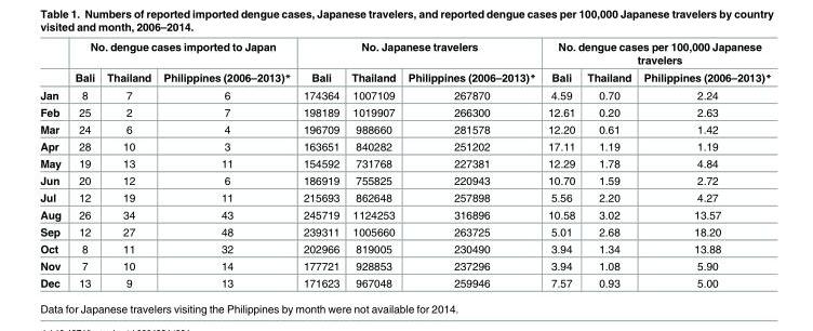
<table><thead><tr><td rowspan="2"></td><td colspan="3">No. dengue cases imported to Japan</td><td colspan="3">No. Japanese travelers</td><td colspan="3">No. dengue cases per 100,000 Japanese travelers</td></tr><tr><td>Bali</td><td>Thailand</td><td>Philippines (2006–2013)*</td><td>Bali</td><td>Thailand</td><td>Philippines (2006–2013)*</td><td>Bali</td><td>Thailand</td><td>Philippines (2006–2013)*</td></tr></thead><tbody><tr><td>Jan</td><td>8</td><td>7</td><td>6</td><td>174364</td><td>1007109</td><td>267870</td><td>4.59</td><td>0.70</td><td>2.24</td></tr><tr><td>Feb</td><td>25</td><td>2</td><td>7</td><td>198189</td><td>1019907</td><td>266300</td><td>12.61</td><td>0.20</td><td>2.63</td></tr><tr><td>Mar</td><td>24</td><td>6</td><td>4</td><td>196709</td><td>988660</td><td>281578</td><td>12.20</td><td>0.61</td><td>1.42</td></tr><tr><td>Apr</td><td>28</td><td>10</td><td>3</td><td>163651</td><td>840282</td><td>251202</td><td>17.11</td><td>1.19</td><td>1.19</td></tr><tr><td>May</td><td>19</td><td>13</td><td>11</td><td>154592</td><td>731768</td><td>227381</td><td>12.29</td><td>1.78</td><td>4.84</td></tr><tr><td>Jun</td><td>20</td><td>12</td><td>6</td><td>186919</td><td>755825</td><td>220943</td><td>10.70</td><td>1.59</td><td>2.72</td></tr><tr><td>Jul</td><td>12</td><td>19</td><td>11</td><td>215693</td><td>862648</td><td>257898</td><td>5.56</td><td>2.20</td><td>4.27</td></tr><tr><td>Aug</td><td>26</td><td>34</td><td>43</td><td>245719</td><td>1124253</td><td>316896</td><td>10.58</td><td>3.02</td><td>13.57</td></tr><tr><td>Sep</td><td>12</td><td>27</td><td>48</td><td>239311</td><td>1005660</td><td>263725</td><td>5.01</td><td>2.68</td><td>18.20</td></tr><tr><td>Oct</td><td>8</td><td>11</td><td>32</td><td>202966</td><td>819005</td><td>230490</td><td>3.94</td><td>1.34</td><td>13.88</td></tr><tr><td>Nov</td><td>7</td><td>10</td><td>14</td><td>177721</td><td>928853</td><td>237296</td><td>3.94</td><td>1.08</td><td>5.90</td></tr><tr><td>Dec</td><td>13</td><td>9</td><td>13</td><td>171623</td><td>967048</td><td>259946</td><td>7.57</td><td>0.93</td><td>5.00</td></tr></tbody></table>